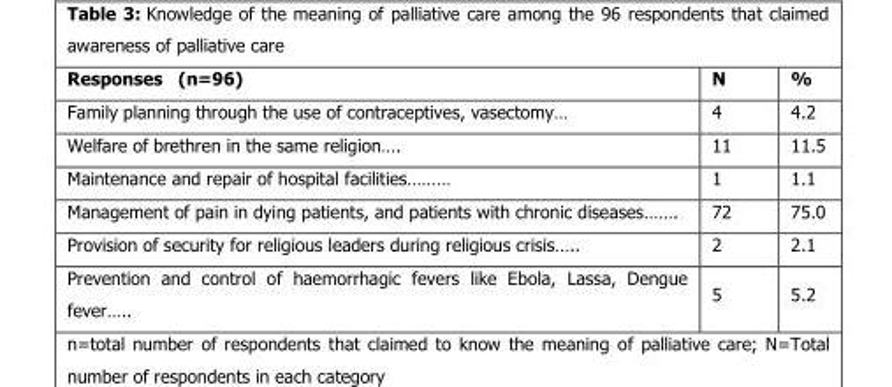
<table><thead><tr><td>Responses (n=96)</td><td>N</td><td>%</td></tr></thead><tbody><tr><td>Family planning through the use of contraceptives, vasectomy…</td><td>4</td><td>4.2</td></tr><tr><td>Welfare of brethren in the same religion….</td><td>11</td><td>11.5</td></tr><tr><td>Maintenance and repair of hospital facilities………</td><td>1</td><td>1.1</td></tr><tr><td>Management of pain in dying patients, and patients with chronic diseases…….</td><td>72</td><td>75.0</td></tr><tr><td>Provision of security for religious leaders during religious crisis…..</td><td>2</td><td>2.1</td></tr><tr><td>Prevention and control of haemorrhagic fevers like Ebola, Lassa, Dengue fever…..</td><td>5</td><td>5.2</td></tr></tbody></table>